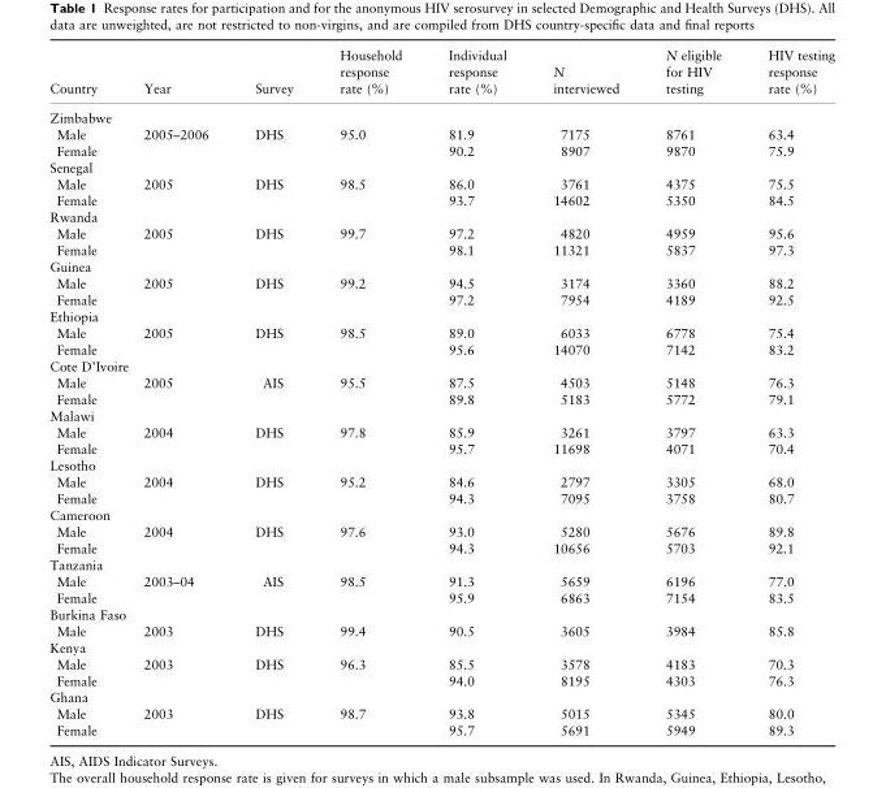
<table><thead><tr><td>Country</td><td>Year</td><td>Survey</td><td>Household response rate (%)</td><td>Individual response rate (%)</td><td>N interviewed</td><td>N eligible for HIV testing</td><td>HIV testing response rate (%)</td></tr></thead><tbody><tr><td colspan="8">Zimbabwe</td></tr><tr><td>Male</td><td rowspan="2">2005–2006</td><td rowspan="2">DHS</td><td rowspan="2">95.0</td><td>81.9</td><td>7175</td><td>8761</td><td>63.4</td></tr><tr><td>Female</td><td>90.2</td><td>8907</td><td>9870</td><td>75.9</td></tr><tr><td colspan="8">Senegal</td></tr><tr><td>Male</td><td rowspan="2">2005</td><td rowspan="2">DHS</td><td rowspan="2">98.5</td><td>86.0</td><td>3761</td><td>4375</td><td>75.5</td></tr><tr><td>Female</td><td>93.7</td><td>14602</td><td>5350</td><td>84.5</td></tr><tr><td colspan="8">Rwanda</td></tr><tr><td>Male</td><td rowspan="2">2005</td><td rowspan="2">DHS</td><td rowspan="2">99.7</td><td>97.2</td><td>4820</td><td>4959</td><td>95.6</td></tr><tr><td>Female</td><td>98.1</td><td>11321</td><td>5837</td><td>97.3</td></tr><tr><td colspan="8">Guinea</td></tr><tr><td>Male</td><td rowspan="2">2005</td><td rowspan="2">DHS</td><td rowspan="2">99.2</td><td>94.5</td><td>3174</td><td>3360</td><td>88.2</td></tr><tr><td>Female</td><td>97.2</td><td>7954</td><td>4189</td><td>92.5</td></tr><tr><td colspan="8">Ethiopia</td></tr><tr><td>Male</td><td rowspan="2">2005</td><td rowspan="2">DHS</td><td rowspan="2">98.5</td><td>89.0</td><td>6033</td><td>6778</td><td>75.4</td></tr><tr><td>Female</td><td>95.6</td><td>14070</td><td>7142</td><td>83.2</td></tr><tr><td colspan="8">Cote D’Ivoire</td></tr><tr><td>Male</td><td rowspan="2">2005</td><td rowspan="2">AIS</td><td rowspan="2">95.5</td><td>87.5</td><td>4503</td><td>5148</td><td>76.3</td></tr><tr><td>Female</td><td>89.8</td><td>5183</td><td>5772</td><td>79.1</td></tr><tr><td colspan="8">Malawi</td></tr><tr><td>Male</td><td rowspan="2">2004</td><td rowspan="2">DHS</td><td rowspan="2">97.8</td><td>85.9</td><td>3261</td><td>3797</td><td>63.3</td></tr><tr><td>Female</td><td>95.7</td><td>11698</td><td>4071</td><td>70.4</td></tr><tr><td colspan="8">Lesotho</td></tr><tr><td>Male</td><td rowspan="2">2004</td><td rowspan="2">DHS</td><td rowspan="2">95.2</td><td>84.6</td><td>2797</td><td>3305</td><td>68.0</td></tr><tr><td>Female</td><td>94.3</td><td>7095</td><td>3758</td><td>80.7</td></tr><tr><td colspan="8">Cameroon</td></tr><tr><td>Male</td><td rowspan="2">2004</td><td rowspan="2">DHS</td><td rowspan="2">97.6</td><td>93.0</td><td>5280</td><td>5676</td><td>89.8</td></tr><tr><td>Female</td><td>94.3</td><td>10656</td><td>5703</td><td>92.1</td></tr><tr><td colspan="8">Tanzania</td></tr><tr><td>Male</td><td rowspan="2">2003–04</td><td rowspan="2">AIS</td><td rowspan="2">98.5</td><td>91.3</td><td>5659</td><td>6196</td><td>77.0</td></tr><tr><td>Female</td><td>95.9</td><td>6863</td><td>7154</td><td>83.5</td></tr><tr><td colspan="8">Burkina Faso</td></tr><tr><td>Male</td><td>2003</td><td>DHS</td><td>99.4</td><td>90.5</td><td>3605</td><td>3984</td><td>85.8</td></tr><tr><td colspan="8">Kenya</td></tr><tr><td>Male</td><td rowspan="2">2003</td><td rowspan="2">DHS</td><td rowspan="2">96.3</td><td>85.5</td><td>3578</td><td>4183</td><td>70.3</td></tr><tr><td>Female</td><td>94.0</td><td>8195</td><td>4303</td><td>76.3</td></tr><tr><td colspan="8">Ghana</td></tr><tr><td>Male</td><td rowspan="2">2003</td><td rowspan="2">DHS</td><td rowspan="2">98.7</td><td>93.8</td><td>5015</td><td>5345</td><td>80.0</td></tr><tr><td>Female</td><td>95.7</td><td>5691</td><td>5949</td><td>89.3</td></tr></tbody></table>